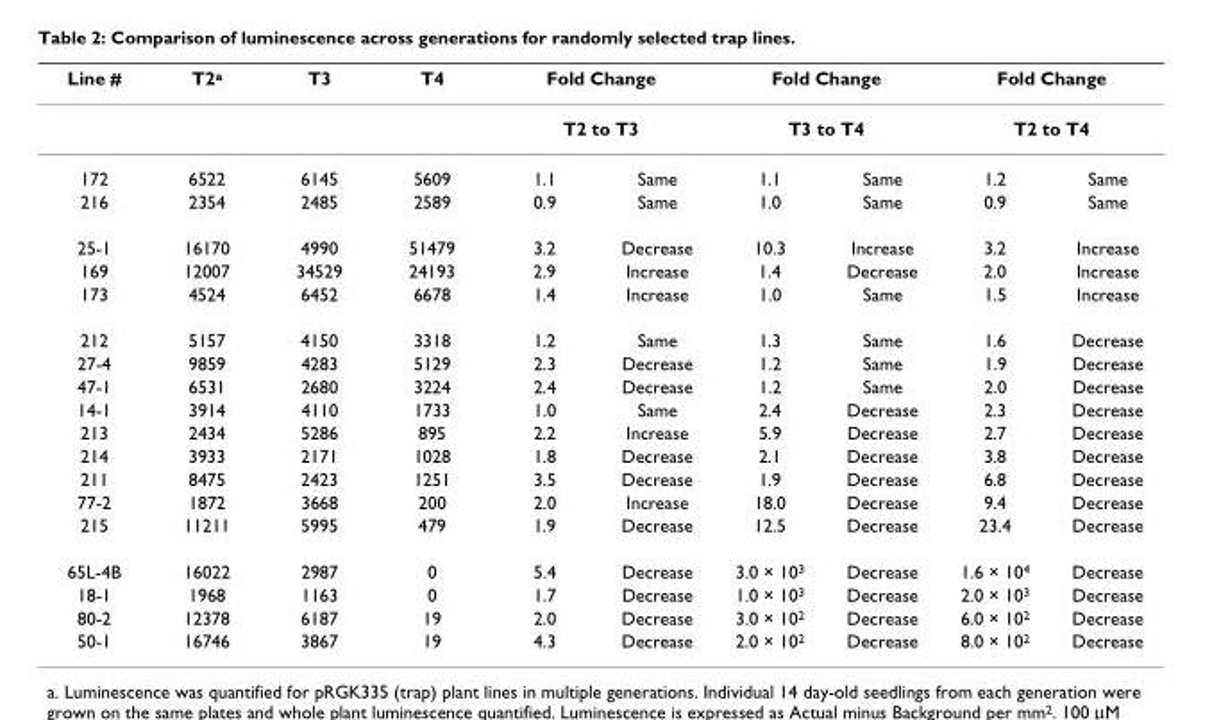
<table><thead><tr><td rowspan="3">Line # 172</td><td rowspan="3">T2a 6522</td><td rowspan="3">T3 6145</td><td rowspan="3">T4 5609</td><td rowspan="2" colspan="2">Fold Change T2 to T3</td><td rowspan="2" colspan="2">Fold Change T3 to T4</td><td rowspan="2" colspan="2">Fold Change T2 to T4</td></tr><tr></tr><tr><td>1.1</td><td>Same</td><td>1.1</td><td>Same</td><td>1.2</td><td>Same</td></tr></thead><tbody><tr><td>216</td><td>2354</td><td>2485</td><td>2589</td><td>0.9</td><td>Same</td><td>1.0</td><td>Same</td><td>0.9</td><td>Same</td></tr><tr><td>25-1</td><td>16170</td><td>4990</td><td>51479</td><td>3.2</td><td>Decrease</td><td>10.3</td><td>Increase</td><td>3.2</td><td>Increase</td></tr><tr><td>169</td><td>12007</td><td>34529</td><td>24193</td><td>2.9</td><td>Increase</td><td>1.4</td><td>Decrease</td><td>2.0</td><td>Increase</td></tr><tr><td>173</td><td>4524</td><td>6452</td><td>6678</td><td>1.4</td><td>Increase</td><td>1.0</td><td>Same</td><td>1.5</td><td>Increase</td></tr><tr><td>212</td><td>5157</td><td>4150</td><td>3318</td><td>1.2</td><td>Same</td><td>1.3</td><td>Same</td><td>1.6</td><td>Decrease</td></tr><tr><td>27-4</td><td>9859</td><td>4283</td><td>5129</td><td>2.3</td><td>Decrease</td><td>1.2</td><td>Same</td><td>1.9</td><td>Decrease</td></tr><tr><td>47-1</td><td>6531</td><td>2680</td><td>3224</td><td>2.4</td><td>Decrease</td><td>1.2</td><td>Same</td><td>2.0</td><td>Decrease</td></tr><tr><td>14-1</td><td>3914</td><td>4110</td><td>1733</td><td>1.0</td><td>Same</td><td>2.4</td><td>Decrease</td><td>2.3</td><td>Decrease</td></tr><tr><td>213</td><td>2434</td><td>5286</td><td>895</td><td>2.2</td><td>Increase</td><td>5.9</td><td>Decrease</td><td>2.7</td><td>Decrease</td></tr><tr><td>214</td><td>3933</td><td>2171</td><td>1028</td><td>1.8</td><td>Decrease</td><td>2.1</td><td>Decrease</td><td>3.8</td><td>Decrease</td></tr><tr><td>211</td><td>8475</td><td>2423</td><td>1251</td><td>3.5</td><td>Decrease</td><td>1.9</td><td>Decrease</td><td>6.8</td><td>Decrease</td></tr><tr><td>77-2</td><td>1872</td><td>3668</td><td>200</td><td>2.0</td><td>Increase</td><td>18.0</td><td>Decrease</td><td>9.4</td><td>Decrease</td></tr><tr><td>215</td><td>11211</td><td>5995</td><td>479</td><td>1.9</td><td>Decrease</td><td>12.5</td><td>Decrease</td><td>23.4</td><td>Decrease</td></tr><tr><td>65L-4B</td><td>16022</td><td>2987</td><td>0</td><td>5.4</td><td>Decrease</td><td>3.0 × 103</td><td>Decrease</td><td>1.6 × 104</td><td>Decrease</td></tr><tr><td>18-1</td><td>1968</td><td>1163</td><td>0</td><td>1.7</td><td>Decrease</td><td>1.0 × 103</td><td>Decrease</td><td>2.0 × 103</td><td>Decrease</td></tr><tr><td>80-2</td><td>12378</td><td>6187</td><td>19</td><td>2.0</td><td>Decrease</td><td>3.0 × 102</td><td>Decrease</td><td>6.0 × 102</td><td>Decrease</td></tr><tr><td>50-1</td><td>16746</td><td>3867</td><td>19</td><td>4.3</td><td>Decrease</td><td>2.0 × 102</td><td>Decrease</td><td>8.0 × 102</td><td>Decrease</td></tr></tbody></table>